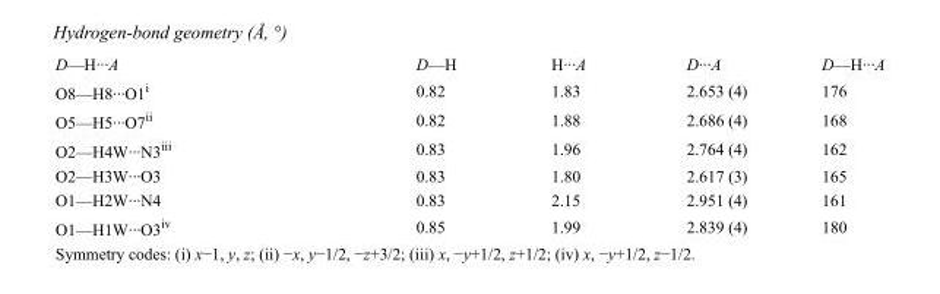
<table><tbody><tr><td>D—H···A</td><td>D—H</td><td>H···A</td><td>D···A</td><td>D—H···A</td></tr><tr><td>O8—H8···O1<sup>i</sup></td><td>0.82</td><td>1.83</td><td>2.653 (4)</td><td>176</td></tr><tr><td>O5—H5···O7<sup>ii</sup></td><td>0.82</td><td>1.88</td><td>2.686 (4)</td><td>168</td></tr><tr><td>O2—H4W···N3<sup>iii</sup></td><td>0.83</td><td>1.96</td><td>2.764 (4)</td><td>162</td></tr><tr><td>O2—H3W···O3</td><td>0.83</td><td>1.80</td><td>2.617 (3)</td><td>165</td></tr><tr><td>O1—H2W···N4</td><td>0.83</td><td>2.15</td><td>2.951 (4)</td><td>161</td></tr><tr><td>O1—H1W···O3<sup>iv</sup></td><td>0.85</td><td>1.99</td><td>2.839 (4)</td><td>180</td></tr></tbody></table>